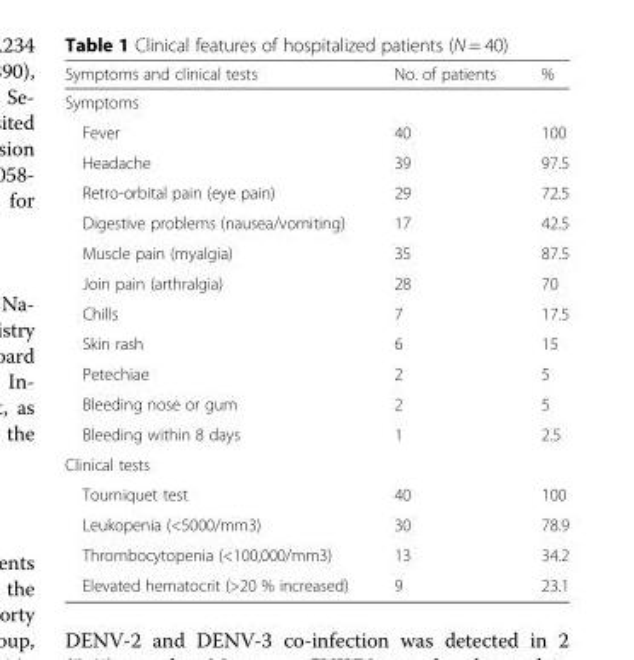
<table><thead><tr><td>Symptoms and clinical tests</td><td>No. of patients</td><td>%</td></tr></thead><tbody><tr><td colspan="3">Symptoms</td></tr><tr><td>Fever</td><td>40</td><td>100</td></tr><tr><td>Headache</td><td>39</td><td>97.5</td></tr><tr><td>Retro-orbital pain (eye pain)</td><td>29</td><td>72.5</td></tr><tr><td>Digestive problems (nausea/vomiting)</td><td>17</td><td>42.5</td></tr><tr><td>Muscle pain (myalgia)</td><td>35</td><td>87.5</td></tr><tr><td>Join pain (arthralgia)</td><td>28</td><td>70</td></tr><tr><td>Chills</td><td>7</td><td>17.5</td></tr><tr><td>Skin rash</td><td>6</td><td>15</td></tr><tr><td>Petechiae</td><td>2</td><td>5</td></tr><tr><td>Bleeding nose or gum</td><td>2</td><td>5</td></tr><tr><td>Bleeding within 8 days</td><td>1</td><td>2.5</td></tr><tr><td colspan="3">Clinical tests</td></tr><tr><td>Tourniquet test</td><td>40</td><td>100</td></tr><tr><td>Leukopenia (&lt;5000/mm3)</td><td>30</td><td>78.9</td></tr><tr><td>Thrombocytopenia (&lt;100,000/mm3)</td><td>13</td><td>34.2</td></tr><tr><td>Elevated hematocrit (&gt;20 % increased)</td><td>9</td><td>23.1</td></tr></tbody></table>